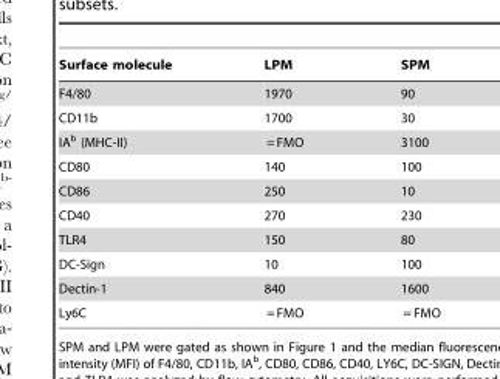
<table><thead><tr><td>Surface molecule</td><td>LPM</td><td>SPM</td></tr></thead><tbody><tr><td>F4/80</td><td>1970</td><td>90</td></tr><tr><td>CD11b</td><td>1700</td><td>30</td></tr><tr><td>IA<sup>b</sup> (MHC-II)</td><td>= FMO</td><td>3100</td></tr><tr><td>CD80</td><td>140</td><td>100</td></tr><tr><td>CD86</td><td>250</td><td>10</td></tr><tr><td>CD40</td><td>270</td><td>230</td></tr><tr><td>TLR4</td><td>150</td><td>80</td></tr><tr><td>DC-Sign</td><td>10</td><td>100</td></tr><tr><td>Dectin-1</td><td>840</td><td>1600</td></tr><tr><td>Ly6C</td><td>= FMO</td><td>= FMO</td></tr></tbody></table>